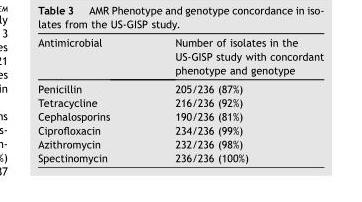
<table><thead><tr><td>Antimicrobial</td><td>Number of isolates in the US-GISP study with concordant phenotype and genotype</td></tr></thead><tbody><tr><td>Penicillin</td><td>205/236 (87%)</td></tr><tr><td>Tetracycline</td><td>216/236 (92%)</td></tr><tr><td>Cephalosporins</td><td>190/236 (81%)</td></tr><tr><td>Ciprofloxacin</td><td>234/236 (99%)</td></tr><tr><td>Azithromycin</td><td>232/236 (98%)</td></tr><tr><td>Spectinomycin</td><td>236/236 (100%)</td></tr></tbody></table>